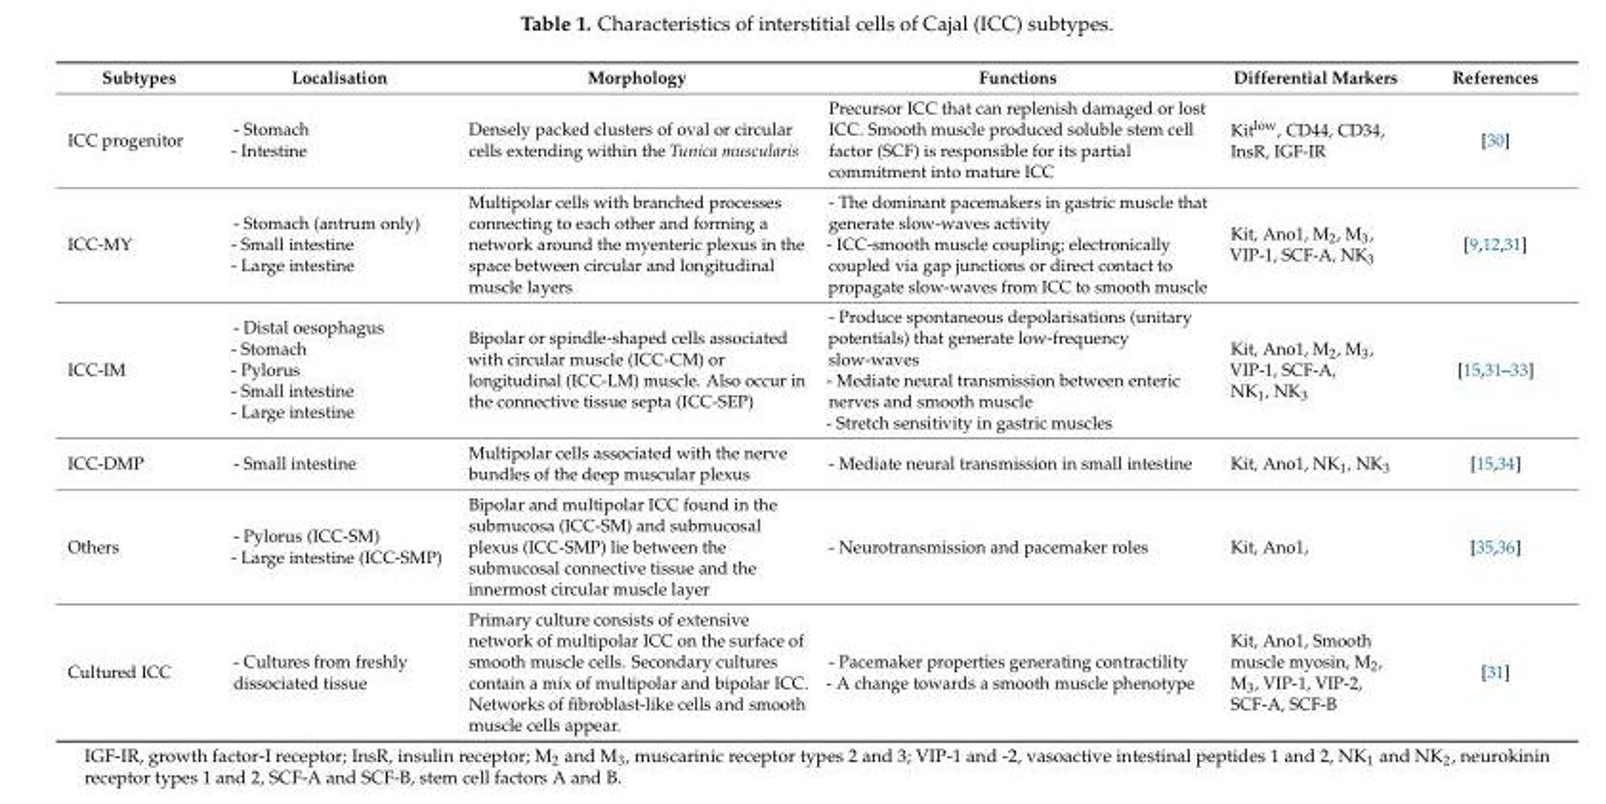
<table><thead><tr><td>Subtypes</td><td>Localisation</td><td>Morphology</td><td>Functions</td><td>Differential Markers</td><td>References</td></tr></thead><tbody><tr><td>ICC progenitor</td><td>- Stomach - Intestine</td><td>Densely packed clusters of oval or circular cells extending within the Tunica muscularis</td><td>Precursor ICC that can replenish damaged or lost ICC. Smooth muscle produced soluble stem cell factor (SCF) is responsible for its partial commitment into mature ICC</td><td>Kit<sup>low</sup>, CD44, CD34, InsR, IGF-IR</td><td>[30]</td></tr><tr><td>ICC-MY</td><td>- Stomach (antrum only) - Small intestine - Large intestine</td><td>Multipolar cells with branched processes connecting to each other and forming a network around the myenteric plexus in the space between circular and longitudinal muscle layers</td><td>- The dominant pacemakers in gastric muscle that generate slow-waves activity - ICC-smooth muscle coupling; electronically coupled via gap junctions or direct contact to propagate slow-waves from ICC to smooth muscle</td><td>Kit, Ano1, M<sub>2</sub>, M<sub>3</sub>, VIP-1, SCF-A, NK<sub>3</sub></td><td>[9,12,31]</td></tr><tr><td>ICC-IM</td><td>- Distal oesophagus - Stomach - Pylorus - Small intestine - Large intestine</td><td>Bipolar or spindle-shaped cells associated with circular muscle (ICC-CM) or longitudinal (ICC-LM) muscle. Also occur in the connective tissue septa (ICC-SEP)</td><td>- Produce spontaneous depolarisations (unitary potentials) that generate low-frequency slow-waves - Mediate neural transmission between enteric nerves and smooth muscle - Stretch sensitivity in gastric muscles</td><td>Kit, Ano1, M<sub>2</sub>, M<sub>3</sub>, VIP-1, SCF-A, NK<sub>1</sub>, NK<sub>3</sub></td><td>[15,31–33]</td></tr><tr><td>ICC-DMP</td><td>- Small intestine</td><td>Multipolar cells associated with the nerve bundles of the deep muscular plexus</td><td>- Mediate neural transmission in small intestine</td><td>Kit, Ano1, NK<sub>1</sub>, NK<sub>3</sub></td><td>[15,34]</td></tr><tr><td>Others</td><td>- Pylorus (ICC-SM) - Large intestine (ICC-SMP)</td><td>Bipolar and multipolar ICC found in the submucosa (ICC-SM) and submucosal plexus (ICC-SMP) lie between the submucosal connective tissue and the innermost circular muscle layer</td><td>- Neurotransmission and pacemaker roles</td><td>Kit, Ano1,</td><td>[35,36]</td></tr><tr><td>Cultured ICC</td><td>- Cultures from freshly dissociated tissue</td><td>Primary culture consists of extensive network of multipolar ICC on the surface of smooth muscle cells. Secondary cultures contain a mix of multipolar and bipolar ICC. Networks of fibroblast-like cells and smooth muscle cells appear.</td><td>- Pacemaker properties generating contractility - A change towards a smooth muscle phenotype</td><td>Kit, Ano1, Smooth muscle myosin, M<sub>2</sub>, M<sub>3</sub>, VIP-1, VIP-2, SCF-A, SCF-B</td><td>[31]</td></tr></tbody></table>